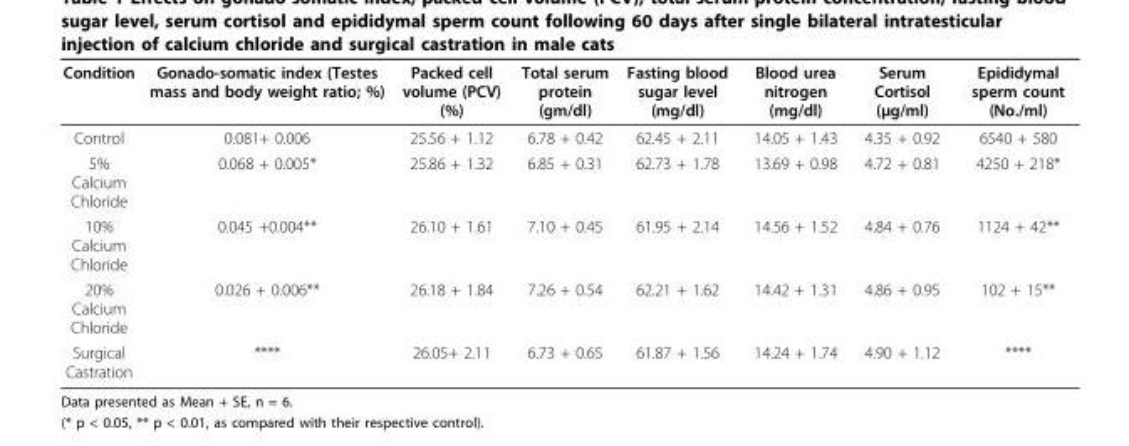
<table><thead><tr><td>Condition</td><td>Gonado-somatic index (Testes mass and body weight ratio; %)</td><td>Packed cell volume (PCV) (%)</td><td>Total serum protein (gm/dl)</td><td>Fasting blood sugar level (mg/dl)</td><td>Blood urea nitrogen (mg/dl)</td><td>Serum Cortisol (μg/ml)</td><td>Epididymal sperm count (No./ml)</td></tr></thead><tbody><tr><td>Control</td><td>0.081+ 0.006</td><td>25.56 + 1.12</td><td>6.78 + 0.42</td><td>62.45 + 2.11</td><td>14.05 + 1.43</td><td>4.35 + 0.92</td><td>6540 + 580</td></tr><tr><td>5% Calcium Chloride</td><td>0.068 + 0.005*</td><td>25.86 + 1.32</td><td>6.85 + 0.31</td><td>62.73 + 1.78</td><td>13.69 + 0.98</td><td>4.72 + 0.81</td><td>4250 + 218*</td></tr><tr><td>10% Calcium Chloride</td><td>0.045 +0.004**</td><td>26.10 + 1.61</td><td>7.10 + 0.45</td><td>61.95 + 2.14</td><td>14.56 + 1.52</td><td>4.84 + 0.76</td><td>1124 + 42**</td></tr><tr><td>20% Calcium Chloride</td><td>0.026 + 0.006**</td><td>26.18 + 1.84</td><td>7.26 + 0.54</td><td>62.21 + 1.62</td><td>14.42 + 1.31</td><td>4.86 + 0.95</td><td>102 + 15**</td></tr><tr><td>Surgical Castration</td><td>****</td><td>26.05+ 2.11</td><td>6.73 + 0.65</td><td>61.87 + 1.56</td><td>14.24 + 1.74</td><td>4.90 + 1.12</td><td>****</td></tr></tbody></table>